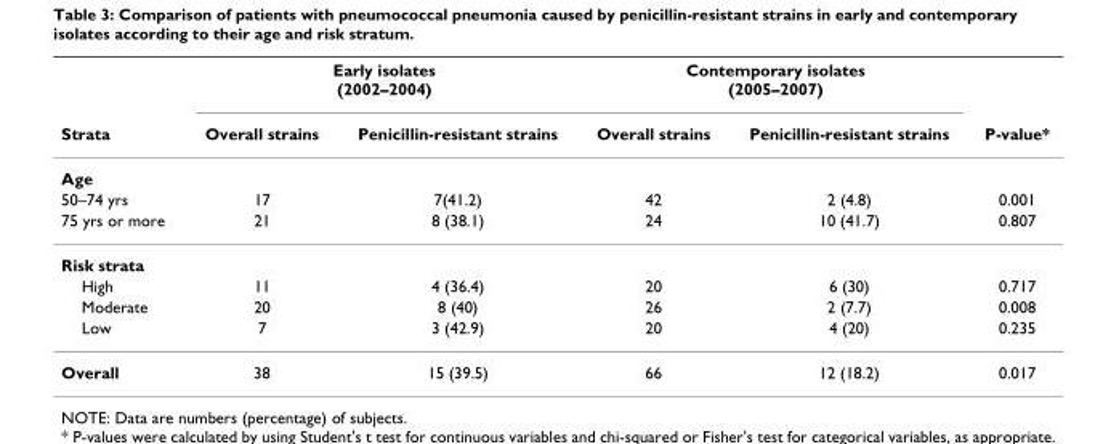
<table><thead><tr><td rowspan="2">Strata</td><td colspan="2">Early isolates (2002–2004)</td><td colspan="2">Contemporary isolates (2005–2007)</td><td rowspan="2">P-value*</td></tr><tr><td>Overall strains</td><td>Penicillin-resistant strains</td><td>Overall strains</td><td>Penicillin-resistant strains</td></tr></thead><tbody><tr><td colspan="6">Age</td></tr><tr><td>50–74 yrs</td><td>17</td><td>7(41.2)</td><td>42</td><td>2 (4.8)</td><td>0.001</td></tr><tr><td>75 yrs or more</td><td>21</td><td>8 (38.1)</td><td>24</td><td>10 (41.7)</td><td>0.807</td></tr><tr><td colspan="6">Risk strata</td></tr><tr><td>High</td><td>11</td><td>4 (36.4)</td><td>20</td><td>6 (30)</td><td>0.717</td></tr><tr><td>Moderate</td><td>20</td><td>8 (40)</td><td>26</td><td>2 (7.7)</td><td>0.008</td></tr><tr><td>Low</td><td>7</td><td>3 (42.9)</td><td>20</td><td>4 (20)</td><td>0.235</td></tr><tr><td>Overall</td><td>38</td><td>15 (39.5)</td><td>66</td><td>12 (18.2)</td><td>0.017</td></tr></tbody></table>